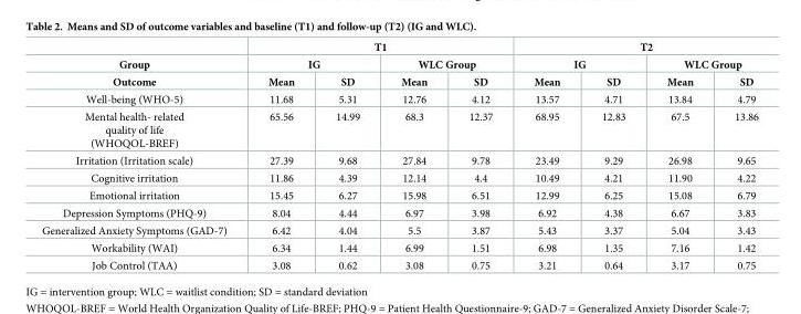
<table><thead><tr><td rowspan="3">Group Outcome</td><td colspan="4">T1</td><td colspan="4">T2</td></tr><tr><td colspan="2">IG</td><td colspan="2">WLC Group</td><td colspan="2">IG</td><td colspan="2">WLC Group</td></tr><tr><td>Mean</td><td>SD</td><td>Mean</td><td>SD</td><td>Mean</td><td>SD</td><td>Mean</td><td>SD</td></tr></thead><tbody><tr><td>Well-being (WHO-5)</td><td>11.68</td><td>5.31</td><td>12.76</td><td>4.12</td><td>13.57</td><td>4.71</td><td>13.84</td><td>4.79</td></tr><tr><td>Mental health- related quality of life (WHOQOL-BREF)</td><td>65.56</td><td>14.99</td><td>68.3</td><td>12.37</td><td>68.95</td><td>12.83</td><td>67.5</td><td>13.86</td></tr><tr><td>Irritation (Irritation scale)</td><td>27.39</td><td>9.68</td><td>27.84</td><td>9.78</td><td>23.49</td><td>9.29</td><td>26.98</td><td>9.65</td></tr><tr><td>Cognitive irritation</td><td>11.86</td><td>4.39</td><td>12.14</td><td>4.4</td><td>10.49</td><td>4.21</td><td>11.90</td><td>4.22</td></tr><tr><td>Emotional irritation</td><td>15.45</td><td>6.27</td><td>15.98</td><td>6.51</td><td>12.99</td><td>6.25</td><td>15.08</td><td>6.79</td></tr><tr><td>Depression Symptoms (PHQ-9)</td><td>8.04</td><td>4.44</td><td>6.97</td><td>3.98</td><td>6.92</td><td>4.38</td><td>6.67</td><td>3.83</td></tr><tr><td>Generalized Anxiety Symptoms (GAD-7)</td><td>6.42</td><td>4.04</td><td>5.5</td><td>3.87</td><td>5.43</td><td>3.37</td><td>5.04</td><td>3.43</td></tr><tr><td>Workability (WAI)</td><td>6.34</td><td>1.44</td><td>6.99</td><td>1.51</td><td>6.98</td><td>1.35</td><td>7.16</td><td>1.42</td></tr><tr><td>Job Control (TAA)</td><td>3.08</td><td>0.62</td><td>3.08</td><td>0.75</td><td>3.21</td><td>0.64</td><td>3.17</td><td>0.75</td></tr></tbody></table>